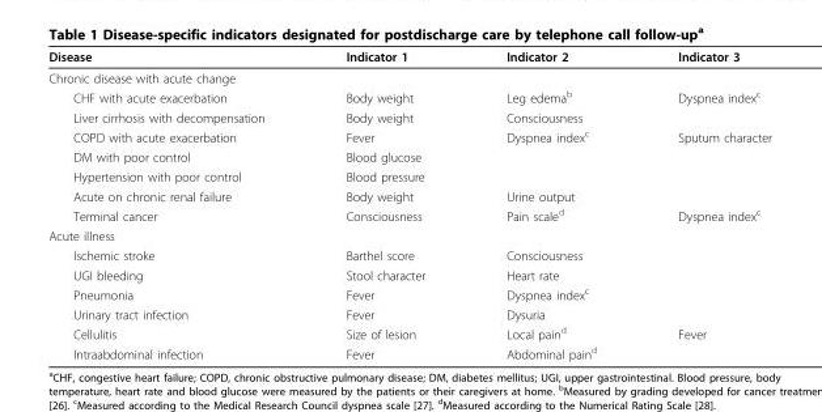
<table><thead><tr><td>Disease</td><td>Indicator 1</td><td>Indicator 2</td><td>Indicator 3</td></tr></thead><tbody><tr><td colspan="4">Chronic disease with acute change</td></tr><tr><td>CHF with acute exacerbation</td><td>Body weight</td><td>Leg edema<sup>b</sup></td><td>Dyspnea index<sup>c</sup></td></tr><tr><td>Liver cirrhosis with decompensation</td><td>Body weight</td><td>Consciousness</td><td></td></tr><tr><td>COPD with acute exacerbation</td><td>Fever</td><td>Dyspnea index<sup>c</sup></td><td>Sputum character</td></tr><tr><td>DM with poor control</td><td>Blood glucose</td><td></td><td></td></tr><tr><td>Hypertension with poor control</td><td>Blood pressure</td><td></td><td></td></tr><tr><td>Acute on chronic renal failure</td><td>Body weight</td><td>Urine output</td><td></td></tr><tr><td>Terminal cancer</td><td>Consciousness</td><td>Pain scale<sup>d</sup></td><td>Dyspnea index<sup>c</sup></td></tr><tr><td colspan="4">Acute illness</td></tr><tr><td>Ischemic stroke</td><td>Barthel score</td><td>Consciousness</td><td></td></tr><tr><td>UGI bleeding</td><td>Stool character</td><td>Heart rate</td><td></td></tr><tr><td>Pneumonia</td><td>Fever</td><td>Dyspnea index<sup>c</sup></td><td></td></tr><tr><td>Urinary tract infection</td><td>Fever</td><td>Dysuria</td><td></td></tr><tr><td>Cellulitis</td><td>Size of lesion</td><td>Local pain<sup>d</sup></td><td>Fever</td></tr><tr><td>Intraabdominal infection</td><td>Fever</td><td>Abdominal pain<sup>d</sup></td><td></td></tr></tbody></table>